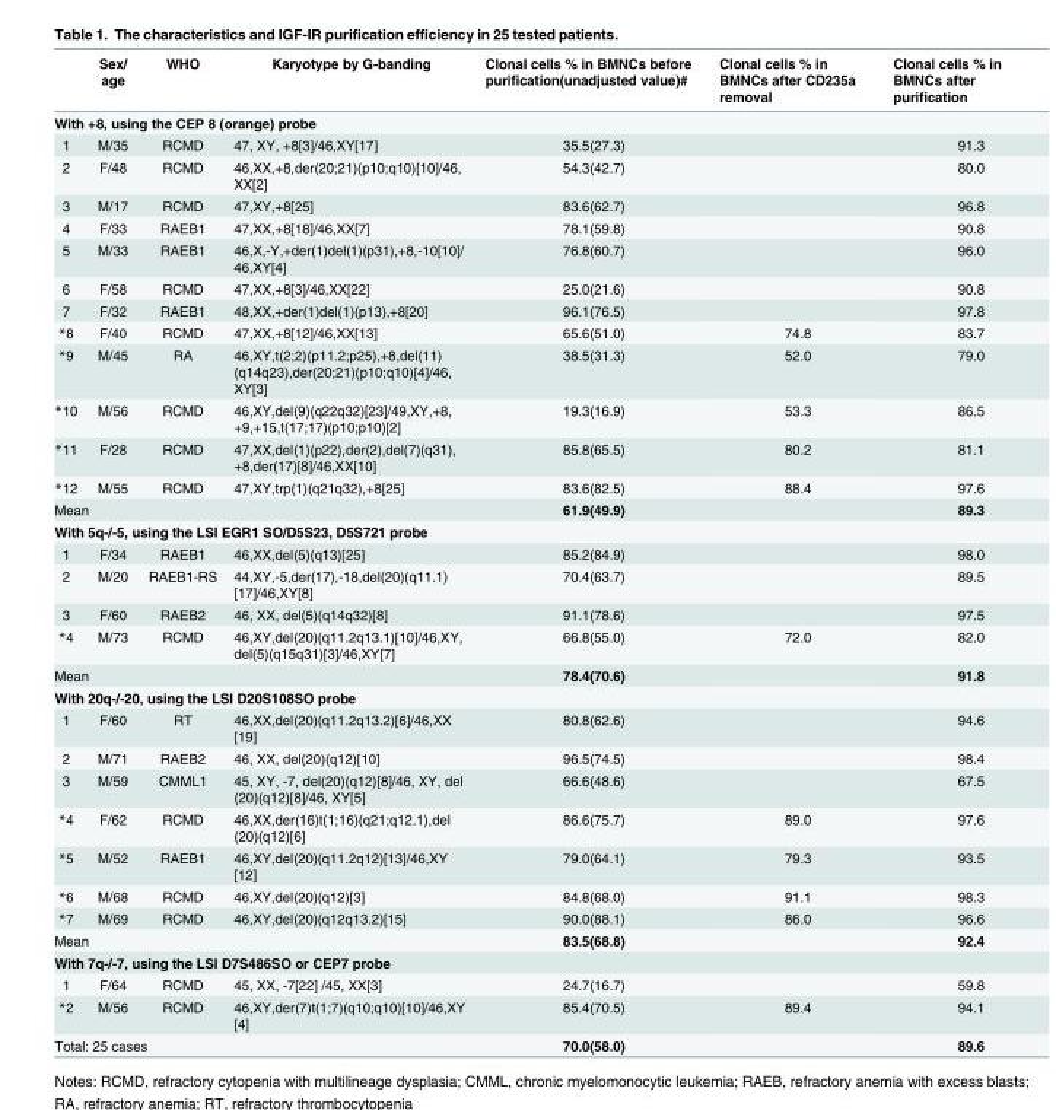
<table><thead><tr><td></td><td>Sex/ age</td><td>WHO</td><td>Karyotype by G-banding</td><td>Clonal cells % in BMNCs before purification(unadjusted value)#</td><td>Clonal cells % in BMNCs after CD235a removal</td><td>Clonal cells % in BMNCs after purification</td></tr></thead><tbody><tr><td colspan="7">With +8, using the CEP 8 (orange) probe</td></tr><tr><td>1</td><td>M/35</td><td>RCMD</td><td>47, XY, +8[3]/46,XY[17]</td><td>35.5(27.3)</td><td></td><td>91.3</td></tr><tr><td>2</td><td>F/48</td><td>RCMD</td><td>46,XX,+8,der(20;21)(p10;q10)[10]/46, XX[2]</td><td>54.3(42.7)</td><td></td><td>80.0</td></tr><tr><td>3</td><td>M/17</td><td>RCMD</td><td>47,XY,+8[25]</td><td>83.6(62.7)</td><td></td><td>96.8</td></tr><tr><td>4</td><td>F/33</td><td>RAEB1</td><td>47,XX,+8[18]/46,XX[7]</td><td>78.1(59.8)</td><td></td><td>90.8</td></tr><tr><td>5</td><td>M/33</td><td>RAEB1</td><td>46,X,-Y,+der(1)del(1)(p31),+8,-10[10]/ 46,XY[4]</td><td>76.8(60.7)</td><td></td><td>96.0</td></tr><tr><td>6</td><td>F/58</td><td>RCMD</td><td>47,XX,+8[3]/46,XX[22]</td><td>25.0(21.6)</td><td></td><td>90.8</td></tr><tr><td>7</td><td>F/32</td><td>RAEB1</td><td>48,XX,+der(1)del(1)(p13),+8[20]</td><td>96.1(76.5)</td><td></td><td>97.8</td></tr><tr><td>*8</td><td>F/40</td><td>RCMD</td><td>47,XX,+8[12]/46,XX[13]</td><td>65.6(51.0)</td><td>74.8</td><td>83.7</td></tr><tr><td>*9</td><td>M/45</td><td>RA</td><td>46,XY,t(2;2)(p11.2;p25),+8,del(11) (q14q23),der(20;21)(p10;q10)[4]/46, XY[3]</td><td>38.5(31.3)</td><td>52.0</td><td>79.0</td></tr><tr><td>*10</td><td>M/56</td><td>RCMD</td><td>46,XY,del(9)(q22q32)[23]/49,XY,+8, +9,+15,t(17;17)(p10;p10)[2]</td><td>19.3(16.9)</td><td>53.3</td><td>86.5</td></tr><tr><td>*11</td><td>F/28</td><td>RCMD</td><td>47,XX,del(1)(p22),der(2),del(7)(q31), +8,der(17)[8]/46,XX[10]</td><td>85.8(65.5)</td><td>80.2</td><td>81.1</td></tr><tr><td>*12</td><td>M/55</td><td>RCMD</td><td>47,XY,trp(1)(q21q32),+8[25]</td><td>83.6(82.5)</td><td>88.4</td><td>97.6</td></tr><tr><td colspan="4">Mean</td><td>61.9(49.9)</td><td></td><td>89.3</td></tr><tr><td colspan="7">With 5q-/-5, using the LSI EGR1 SO/D5S23, D5S721 probe</td></tr><tr><td>1</td><td>F/34</td><td>RAEB1</td><td>46,XX,del(5)(q13)[25]</td><td>85.2(84.9)</td><td></td><td>98.0</td></tr><tr><td>2</td><td>M/20</td><td>RAEB1-RS</td><td>44,XY,-5,der(17),-18,del(20)(q11.1) [17]/46,XY[8]</td><td>70.4(63.7)</td><td></td><td>89.5</td></tr><tr><td>3</td><td>F/60</td><td>RAEB2</td><td>46, XX, del(5)(q14q32)[8]</td><td>91.1(78.6)</td><td></td><td>97.5</td></tr><tr><td>*4</td><td>M/73</td><td>RCMD</td><td>46,XY,del(20)(q11.2q13.1)[10]/46,XY, del(5)(q15q31)[3]/46,XY[7]</td><td>66.8(55.0)</td><td>72.0</td><td>82.0</td></tr><tr><td colspan="4">Mean</td><td>78.4(70.6)</td><td></td><td>91.8</td></tr><tr><td colspan="7">With 20q-/-20, using the LSI D20S108SO probe</td></tr><tr><td>1</td><td>F/60</td><td>RT</td><td>46,XX,del(20)(q11.2q13.2)[6]/46,XX [19]</td><td>80.8(62.6)</td><td></td><td>94.6</td></tr><tr><td>2</td><td>M/71</td><td>RAEB2</td><td>46, XX, del(20)(q12)[10]</td><td>96.5(74.5)</td><td></td><td>98.4</td></tr><tr><td>3</td><td>M/59</td><td>CMML1</td><td>45, XY, -7, del(20)(q12)[8]/46, XY, del (20)(q12)[8]/46, XY[5]</td><td>66.6(48.6)</td><td></td><td>67.5</td></tr><tr><td>*4</td><td>F/62</td><td>RCMD</td><td>46,XX,der(16)t(1;16)(q21;q12.1),del (20)(q12)[6]</td><td>86.6(75.7)</td><td>89.0</td><td>97.6</td></tr><tr><td>*5</td><td>M/52</td><td>RAEB1</td><td>46,XY,del(20)(q11.2q12)[13]/46,XY [12]</td><td>79.0(64.1)</td><td>79.3</td><td>93.5</td></tr><tr><td>*6</td><td>M/68</td><td>RCMD</td><td>46,XY,del(20)(q12)[3]</td><td>84.8(68.0)</td><td>91.1</td><td>98.3</td></tr><tr><td>*7</td><td>M/69</td><td>RCMD</td><td>46,XY,del(20)(q12q13.2)[15]</td><td>90.0(88.1)</td><td>86.0</td><td>96.6</td></tr><tr><td colspan="4">Mean</td><td>83.5(68.8)</td><td></td><td>92.4</td></tr><tr><td colspan="7">With 7q-/-7, using the LSI D7S486SO or CEP7 probe</td></tr><tr><td>1</td><td>F/64</td><td>RCMD</td><td>45, XX, -7[22] /45, XX[3]</td><td>24.7(16.7)</td><td></td><td>59.8</td></tr><tr><td>*2</td><td>M/56</td><td>RCMD</td><td>46,XY,der(7)t(1;7)(q10;q10)[10]/46,XY [4]</td><td>85.4(70.5)</td><td>89.4</td><td>94.1</td></tr><tr><td colspan="4">Total: 25 cases</td><td>70.0(58.0)</td><td></td><td>89.6</td></tr></tbody></table>